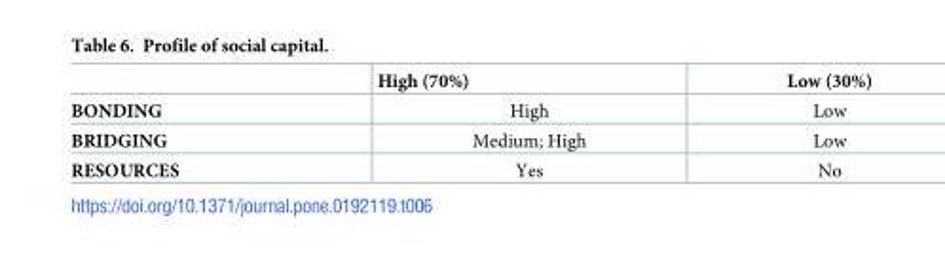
<table><thead><tr><td></td><td>High (70%)</td><td>Low (30%)</td></tr></thead><tbody><tr><td>BONDING</td><td>High</td><td>Low</td></tr><tr><td>BRIDGING</td><td>Medium; High</td><td>Low</td></tr><tr><td>RESOURCES</td><td>Yes</td><td>No</td></tr></tbody></table>